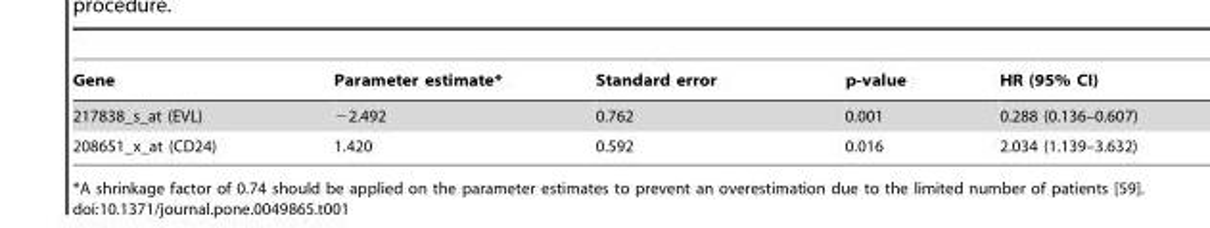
<table><thead><tr><td>Gene</td><td>Parameter estimate*</td><td>Standard error</td><td>p-value</td><td>HR (95% CI)</td></tr></thead><tbody><tr><td>217838_s_at (EVL)</td><td>−2.492</td><td>0.762</td><td>0.001</td><td>0.288 (0.136–0.607)</td></tr><tr><td>208651_x_at (CD24)</td><td>1.420</td><td>0.592</td><td>0.016</td><td>2.034 (1.139–3.632)</td></tr></tbody></table>